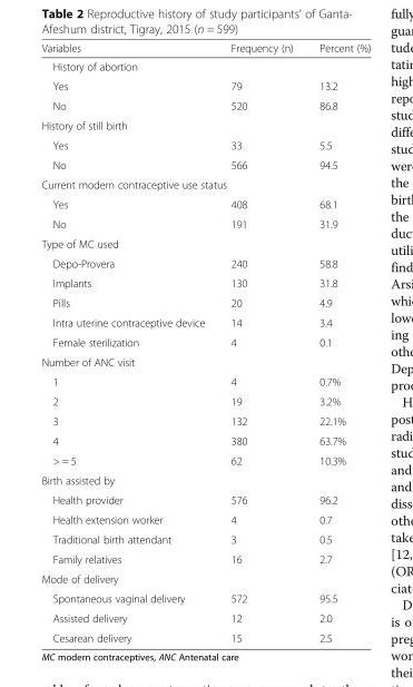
<table><thead><tr><td>Variables</td><td>Frequency (n)</td><td>Percent (%)</td></tr></thead><tbody><tr><td colspan="3">History of abortion</td></tr><tr><td>Yes</td><td>79</td><td>13.2</td></tr><tr><td>No</td><td>520</td><td>86.8</td></tr><tr><td colspan="3">History of still birth</td></tr><tr><td>Yes</td><td>33</td><td>5.5</td></tr><tr><td>No</td><td>566</td><td>94.5</td></tr><tr><td colspan="3">Current modern contraceptive use status</td></tr><tr><td>Yes</td><td>408</td><td>68.1</td></tr><tr><td>No</td><td>191</td><td>31.9</td></tr><tr><td colspan="3">Type of MC used</td></tr><tr><td>Depo-Provera</td><td>240</td><td>58.8</td></tr><tr><td>Implants</td><td>130</td><td>31.8</td></tr><tr><td>Pills</td><td>20</td><td>4.9</td></tr><tr><td>Intra uterine contraceptive device</td><td>14</td><td>3.4</td></tr><tr><td>Female sterilization</td><td>4</td><td>0.1</td></tr><tr><td colspan="3">Number of ANC visit</td></tr><tr><td>1</td><td>4</td><td>0.7%</td></tr><tr><td>2</td><td>19</td><td>3.2%</td></tr><tr><td>3</td><td>132</td><td>22.1%</td></tr><tr><td>4</td><td>380</td><td>63.7%</td></tr><tr><td>&gt; = 5</td><td>62</td><td>10.3%</td></tr><tr><td colspan="3">Birth assisted by</td></tr><tr><td>Health provider</td><td>576</td><td>96.2</td></tr><tr><td>Health extension worker</td><td>4</td><td>0.7</td></tr><tr><td>Traditional birth attendant</td><td>3</td><td>0.5</td></tr><tr><td>Family relatives</td><td>16</td><td>2.7</td></tr><tr><td colspan="3">Mode of delivery</td></tr><tr><td>Spontaneous vaginal delivery</td><td>572</td><td>95.5</td></tr><tr><td>Assisted delivery</td><td>12</td><td>2.0</td></tr><tr><td>Cesarean delivery</td><td>15</td><td>2.5</td></tr></tbody></table>